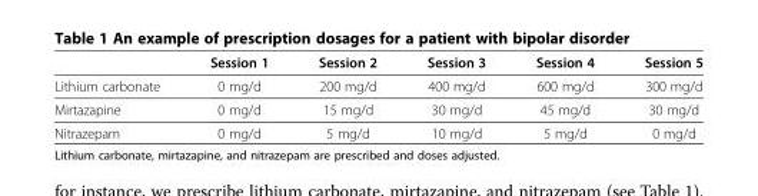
<table><thead><tr><td></td><td>Session 1</td><td>Session 2</td><td>Session 3</td><td>Session 4</td><td>Session 5</td></tr></thead><tbody><tr><td>Lithium carbonate</td><td>0 mg/d</td><td>200 mg/d</td><td>400 mg/d</td><td>600 mg/d</td><td>300 mg/d</td></tr><tr><td>Mirtazapine</td><td>0 mg/d</td><td>15 mg/d</td><td>30 mg/d</td><td>45 mg/d</td><td>30 mg/d</td></tr><tr><td>Nitrazepam</td><td>0 mg/d</td><td>5 mg/d</td><td>10 mg/d</td><td>5 mg/d</td><td>0 mg/d</td></tr></tbody></table>